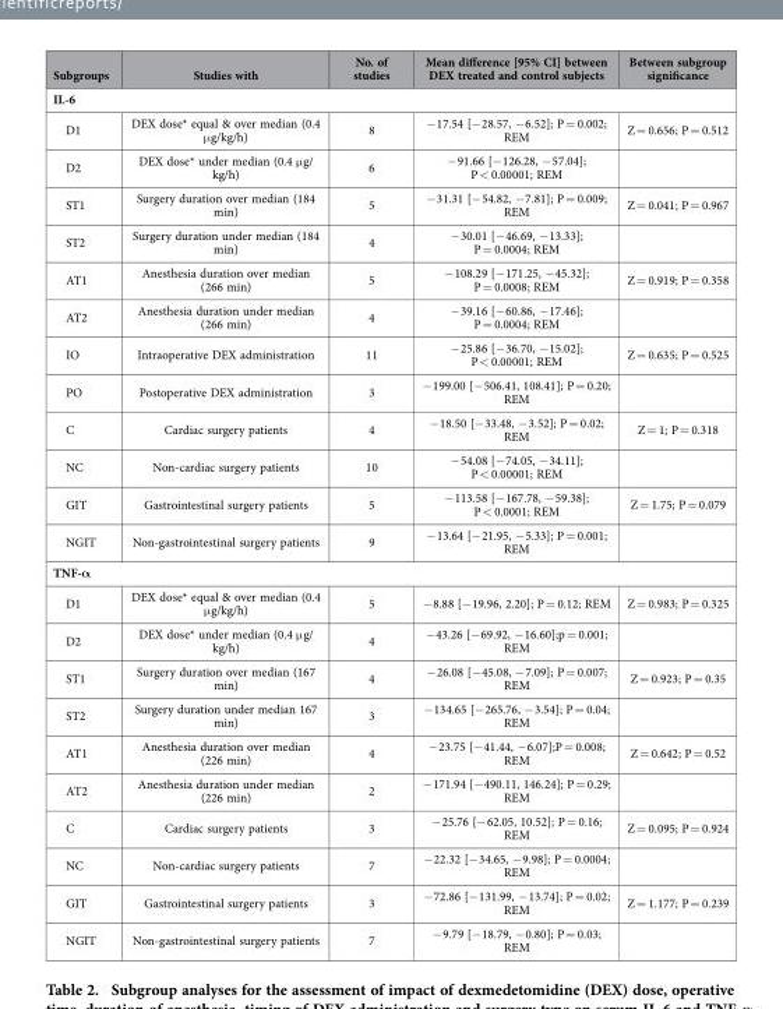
<table><thead><tr><td>Subgroups</td><td>Studies with</td><td>No. of studies</td><td>Mean difference [95% CI] between DEX treated and control subjects</td><td>Between subgroup significance</td></tr></thead><tbody><tr><td colspan="5">IL-6</td></tr><tr><td>D1</td><td>DEX dose* equal &amp; over median (0.4 μ g/kg/h)</td><td>8</td><td>− 17.54 [− 28.57, − 6.52]; P = 0.002; REM</td><td>Z = 0.656; P = 0.512</td></tr><tr><td>D2</td><td>DEX dose* under median (0.4 μ g/ kg/h)</td><td>6</td><td>− 91.66 [− 126.28, − 57.04]; P &lt; 0.00001; REM</td><td></td></tr><tr><td>ST1</td><td>Surgery duration over median (184 min)</td><td>5</td><td>− 31.31 [− 54.82, − 7.81]; P = 0.009; REM</td><td>Z = 0.041; P = 0.967</td></tr><tr><td>ST2</td><td>Surgery duration under median (184 min)</td><td>4</td><td>− 30.01 [− 46.69, − 13.33]; P = 0.0004; REM</td><td></td></tr><tr><td>AT1</td><td>Anesthesia duration over median (266 min)</td><td>5</td><td>− 108.29 [− 171.25, − 45.32]; P = 0.0008; REM</td><td>Z = 0.919; P = 0.358</td></tr><tr><td>AT2</td><td>Anesthesia duration under median (266 min)</td><td>4</td><td>− 39.16 [− 60.86, − 17.46]; P = 0.0004; REM</td><td></td></tr><tr><td>IO</td><td>Intraoperative DEX administration</td><td>11</td><td>− 25.86 [− 36.70, − 15.02]; P &lt; 0.00001; REM</td><td>Z = 0.635; P = 0.525</td></tr><tr><td>PO</td><td>Postoperative DEX administration</td><td>3</td><td>− 199.00 [− 506.41, 108.41]; P = 0.20; REM</td><td></td></tr><tr><td>C</td><td>Cardiac surgery patients</td><td>4</td><td>− 18.50 [− 33.48, − 3.52]; P = 0.02; REM</td><td>Z = 1; P = 0.318</td></tr><tr><td>NC</td><td>Non-cardiac surgery patients</td><td>10</td><td>− 54.08 [− 74.05, − 34.11]; P &lt; 0.00001; REM</td><td></td></tr><tr><td>GIT</td><td>Gastrointestinal surgery patients</td><td>5</td><td>− 113.58 [− 167.78, − 59.38]; P &lt; 0.0001; REM</td><td>Z = 1.75; P = 0.079</td></tr><tr><td>NGIT</td><td>Non-gastrointestinal surgery patients</td><td>9</td><td>− 13.64 [− 21.95, − 5.33]; P = 0.001; REM</td><td></td></tr><tr><td colspan="5">TNF-α</td></tr><tr><td>D1</td><td>DEX dose* equal &amp; over median (0.4 μ g/kg/h)</td><td>5</td><td>− 8.88 [− 19.96, 2.20]; P = 0.12; REM</td><td>Z = 0.983; P = 0.325</td></tr><tr><td>D2</td><td>DEX dose* under median (0.4 μ g/ kg/h)</td><td>4</td><td>− 43.26 [− 69.92, − 16.60];p = 0.001; REM</td><td></td></tr><tr><td>ST1</td><td>Surgery duration over median (167 min)</td><td>4</td><td>− 26.08 [− 45.08, − 7.09]; P = 0.007; REM</td><td>Z = 0.923; P = 0.35</td></tr><tr><td>ST2</td><td>Surgery duration under median 167 min)</td><td>3</td><td>− 134.65 [− 265.76, − 3.54]; P = 0.04; REM</td><td></td></tr><tr><td>AT1</td><td>Anesthesia duration over median (226 min)</td><td>4</td><td>− 23.75 [− 41.44, − 6.07];P = 0.008; REM</td><td>Z = 0.642; P = 0.52</td></tr><tr><td>AT2</td><td>Anesthesia duration under median (226 min)</td><td>2</td><td>− 171.94 [− 490.11, 146.24]; P = 0.29; REM</td><td></td></tr><tr><td>C</td><td>Cardiac surgery patients</td><td>3</td><td>− 25.76 [− 62.05, 10.52]; P = 0.16; REM</td><td>Z = 0.095; P = 0.924</td></tr><tr><td>NC</td><td>Non-cardiac surgery patients</td><td>7</td><td>− 22.32 [− 34.65, − 9.98]; P = 0.0004; REM</td><td></td></tr><tr><td>GIT</td><td>Gastrointestinal surgery patients</td><td>3</td><td>− 72.86 [− 131.99, − 13.74]; P = 0.02; REM</td><td>Z = 1.177; P = 0.239</td></tr><tr><td>NGIT</td><td>Non-gastrointestinal surgery patients</td><td>7</td><td>− 9.79 [− 18.79, − 0.80]; P = 0.03; REM</td><td></td></tr></tbody></table>